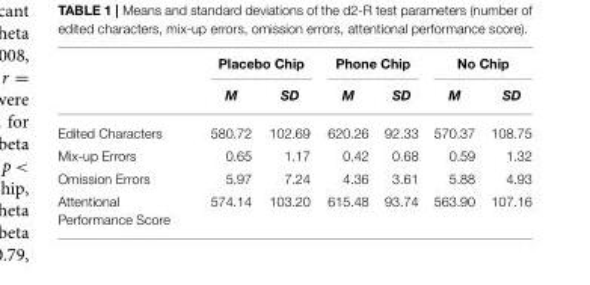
<table><thead><tr><td rowspan="2"></td><td colspan="2">Placebo Chip</td><td colspan="2">Phone Chip</td><td colspan="2">No Chip</td></tr><tr><td>M</td><td>SD</td><td>M</td><td>SD</td><td>M</td><td>SD</td></tr></thead><tbody><tr><td>Edited Characters</td><td>580.72</td><td>102.69</td><td>620.26</td><td>92.33</td><td>570.37</td><td>108.75</td></tr><tr><td>Mix-up Errors</td><td>0.65</td><td>1.17</td><td>0.42</td><td>0.68</td><td>0.59</td><td>1.32</td></tr><tr><td>Omission Errors</td><td>5.97</td><td>7.24</td><td>4.36</td><td>3.61</td><td>5.88</td><td>4.93</td></tr><tr><td>Attentional Performance Score</td><td>574.14</td><td>103.20</td><td>615.48</td><td>93.74</td><td>563.90</td><td>107.16</td></tr></tbody></table>